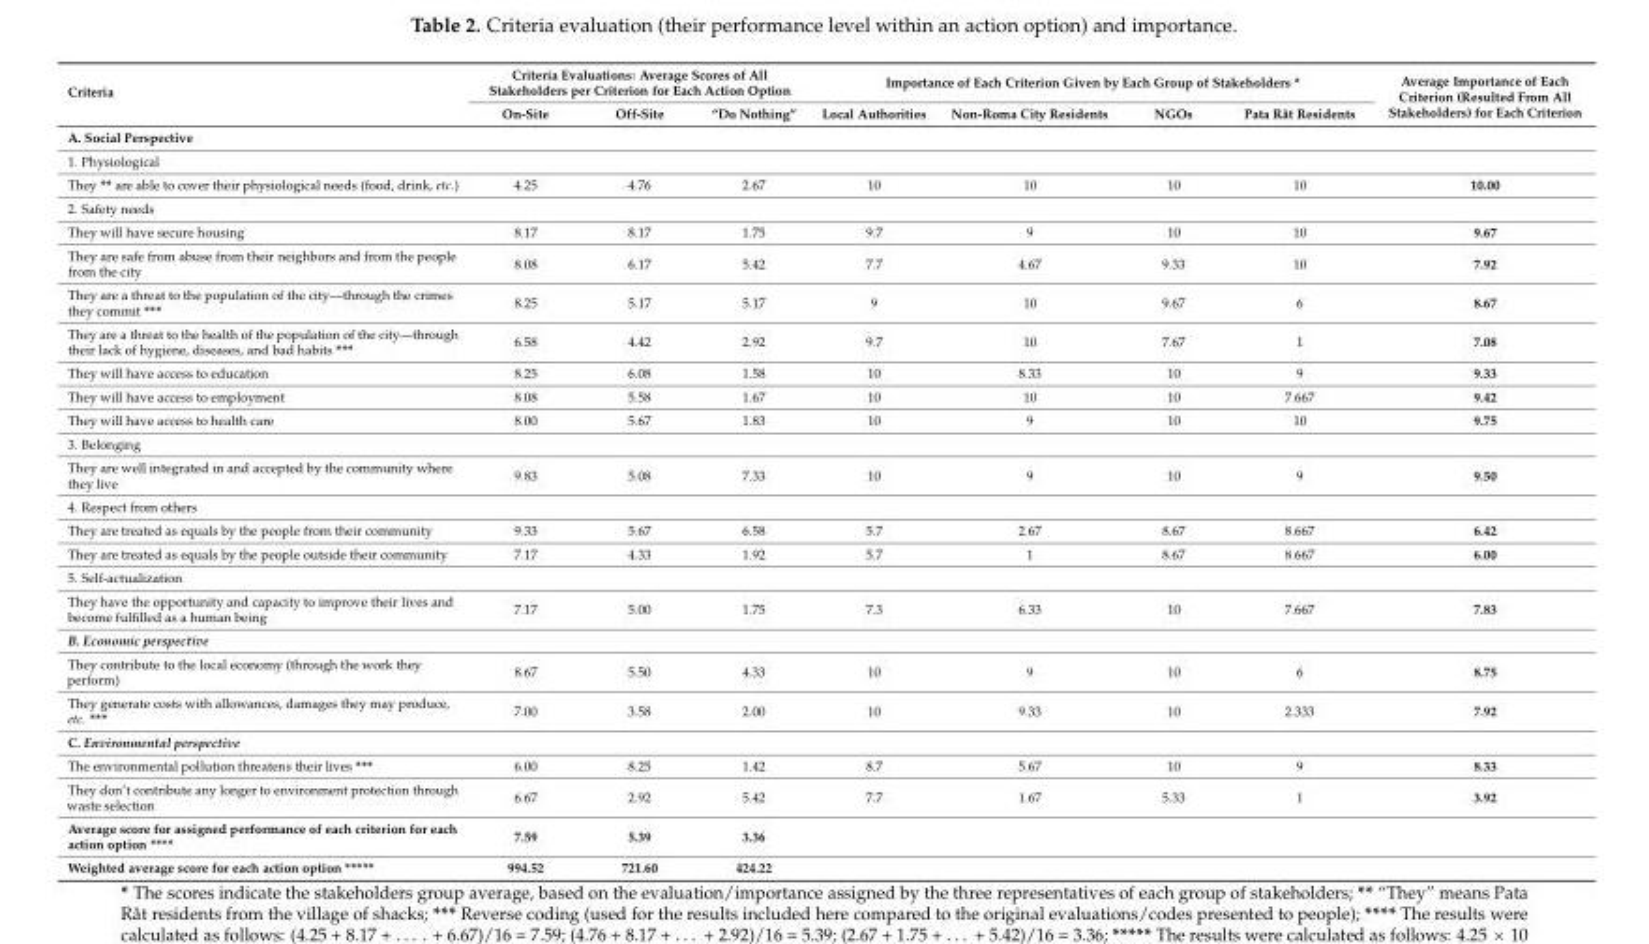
<table><thead><tr><td rowspan="2">Criteria</td><td colspan="3">Criteria Evaluations: Average Scores of All Stakeholders per Criterion for Each Action Option</td><td colspan="4">Importance of Each Criterion Given by Each Group of Stakeholders *</td><td rowspan="2">Average Importance of Each Criterion (Resulted From All Stakeholders) for Each Criterion</td></tr><tr><td>On-Site</td><td>Off-Site</td><td>“Do Nothing”</td><td>Local Authorities</td><td>Non-Roma City Residents</td><td>NGOs</td><td>Pata Rât Residents</td></tr></thead><tbody><tr><td colspan="9">A. Social Perspective</td></tr><tr><td colspan="9">1. Physiological</td></tr><tr><td>They ** are able to cover their physiological needs (food, drink, etc.)</td><td>4.25</td><td>4.76</td><td>2.67</td><td>10</td><td>10</td><td>10</td><td>10</td><td>10.00</td></tr><tr><td colspan="9">2. Safety needs</td></tr><tr><td>They will have secure housing</td><td>8.17</td><td>8.17</td><td>1.75</td><td>9.7</td><td>9</td><td>10</td><td>10</td><td>9.67</td></tr><tr><td>They are safe from abuse from their neighbors and from the people from the city</td><td>8.08</td><td>6.17</td><td>5.42</td><td>7.7</td><td>4.67</td><td>9.33</td><td>10</td><td>7.92</td></tr><tr><td>They are a threat to the population of the city—through the crimes they commit ***</td><td>8.25</td><td>5.17</td><td>5.17</td><td>9</td><td>10</td><td>9.67</td><td>6</td><td>8.67</td></tr><tr><td>They are a threat to the health of the population of the city—through their lack of hygiene, diseases, and bad habits ***</td><td>6.58</td><td>4.42</td><td>2.92</td><td>9.7</td><td>10</td><td>7.67</td><td>1</td><td>7.08</td></tr><tr><td>They will have access to education</td><td>8.25</td><td>6.08</td><td>1.58</td><td>10</td><td>8.33</td><td>10</td><td>9</td><td>9.33</td></tr><tr><td>They will have access to employment</td><td>8.08</td><td>5.58</td><td>1.67</td><td>10</td><td>10</td><td>10</td><td>7.667</td><td>9.42</td></tr><tr><td>They will have access to health care</td><td>8.00</td><td>5.67</td><td>1.83</td><td>10</td><td>9</td><td>10</td><td>10</td><td>9.75</td></tr><tr><td colspan="9">3. Belonging</td></tr><tr><td>They are well integrated in and accepted by the community where they live</td><td>9.83</td><td>5.08</td><td>7.33</td><td>10</td><td>9</td><td>10</td><td>9</td><td>9.50</td></tr><tr><td colspan="9">4. Respect from others</td></tr><tr><td>They are treated as equals by the people from their community</td><td>9.33</td><td>5.67</td><td>6.58</td><td>5.7</td><td>2.67</td><td>8.67</td><td>8.667</td><td>6.42</td></tr><tr><td>They are treated as equals by the people outside their community</td><td>7.17</td><td>4.33</td><td>1.92</td><td>5.7</td><td>1</td><td>8.67</td><td>8.667</td><td>6.00</td></tr><tr><td colspan="9">5. Self-actualization</td></tr><tr><td>They have the opportunity and capacity to improve their lives and become fulfilled as a human being</td><td>7.17</td><td>5.00</td><td>1.75</td><td>7.3</td><td>6.33</td><td>10</td><td>7.667</td><td>7.83</td></tr><tr><td colspan="9">B. Economic perspective</td></tr><tr><td>They contribute to the local economy (through the work they perform)</td><td>8.67</td><td>5.50</td><td>4.33</td><td>10</td><td>9</td><td>10</td><td>6</td><td>8.75</td></tr><tr><td>They generate costs with allowances, damages they may produce, etc. ***</td><td>7.00</td><td>3.58</td><td>2.00</td><td>10</td><td>9.33</td><td>10</td><td>2.333</td><td>7.92</td></tr><tr><td colspan="9">C. Environmental perspective</td></tr><tr><td>The environmental pollution threatens their lives ***</td><td>6.00</td><td>8.25</td><td>1.42</td><td>8.7</td><td>5.67</td><td>10</td><td>9</td><td>8.33</td></tr><tr><td>They don’t contribute any longer to environment protection through waste selection</td><td>6.67</td><td>2.92</td><td>5.42</td><td>7.7</td><td>1.67</td><td>5.33</td><td>1</td><td>3.92</td></tr><tr><td>Average score for assigned performance of each criterion for each action option ****</td><td>7.59</td><td>5.39</td><td>3.36</td><td colspan="5"></td></tr><tr><td>Weighted average score for each action option *****</td><td>994.52</td><td>721.60</td><td>424.22</td><td></td><td></td><td></td><td></td><td></td></tr></tbody></table>